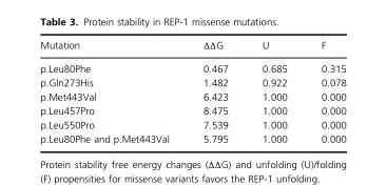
<table><thead><tr><td>Mutation</td><td>ΔΔG</td><td>U</td><td>F</td></tr></thead><tbody><tr><td>p.Leu80Phe</td><td>0.467</td><td>0.685</td><td>0.315</td></tr><tr><td>p.Gln273His</td><td>1.482</td><td>0.922</td><td>0.078</td></tr><tr><td>p.Met443Val</td><td>6.423</td><td>1.000</td><td>0.000</td></tr><tr><td>p.Leu457Pro</td><td>8.475</td><td>1.000</td><td>0.000</td></tr><tr><td>p.Leu550Pro</td><td>7.539</td><td>1.000</td><td>0.000</td></tr><tr><td>p.Leu80Phe and p.Met443Val</td><td>5.795</td><td>1.000</td><td>0.000</td></tr></tbody></table>